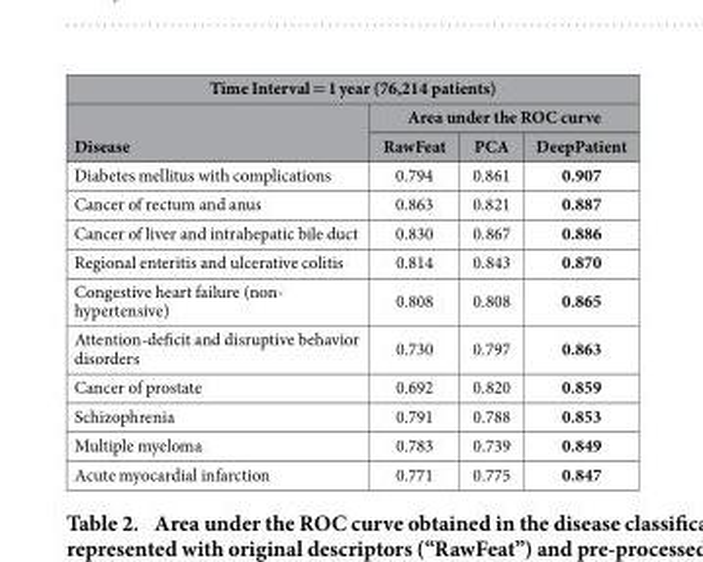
<table><thead><tr><td colspan="4">Time Interval = 1 year (76,214 patients)</td></tr><tr><td rowspan="2">Disease</td><td colspan="3">Area under the ROC curve</td></tr><tr><td>RawFeat</td><td>PCA</td><td>DeepPatient</td></tr></thead><tbody><tr><td>Diabetes mellitus with complications</td><td>0.794</td><td>0.861</td><td>0.907</td></tr><tr><td>Cancer of rectum and anus</td><td>0.863</td><td>0.821</td><td>0.887</td></tr><tr><td>Cancer of liver and intrahepatic bile duct</td><td>0.830</td><td>0.867</td><td>0.886</td></tr><tr><td>Regional enteritis and ulcerative colitis</td><td>0.814</td><td>0.843</td><td>0.870</td></tr><tr><td>Congestive heart failure (non- hypertensive)</td><td>0.808</td><td>0.808</td><td>0.865</td></tr><tr><td>Attention-deficit and disruptive behavior disorders</td><td>0.730</td><td>0.797</td><td>0.863</td></tr><tr><td>Cancer of prostate</td><td>0.692</td><td>0.820</td><td>0.859</td></tr><tr><td>Schizophrenia</td><td>0.791</td><td>0.788</td><td>0.853</td></tr><tr><td>Multiple myeloma</td><td>0.783</td><td>0.739</td><td>0.849</td></tr><tr><td>Acute myocardial infarction</td><td>0.771</td><td>0.775</td><td>0.847</td></tr></tbody></table>